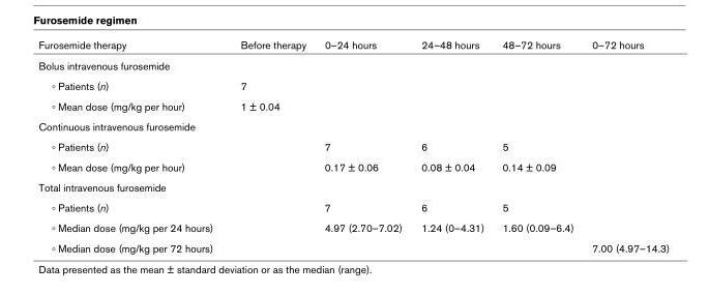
<table><thead><tr><td>Furosemide therapy</td><td>Before therapy</td><td>0–24 hours</td><td>24–48 hours</td><td>48–72 hours</td><td>0–72 hours</td></tr></thead><tbody><tr><td colspan="6">Bolus intravenous furosemide</td></tr><tr><td>◦ Patients (n)</td><td>7</td><td></td><td></td><td></td><td></td></tr><tr><td>◦ Mean dose (mg/kg per hour)</td><td>1 ± 0.04</td><td></td><td></td><td></td><td></td></tr><tr><td colspan="6">Continuous intravenous furosemide</td></tr><tr><td>◦ Patients (n)</td><td></td><td>7</td><td>6</td><td>5</td><td></td></tr><tr><td>◦ Mean dose (mg/kg per hour)</td><td></td><td>0.17 ± 0.06</td><td>0.08 ± 0.04</td><td>0.14 ± 0.09</td><td></td></tr><tr><td colspan="6">Total intravenous furosemide</td></tr><tr><td>◦ Patients (n)</td><td></td><td>7</td><td>6</td><td>5</td><td></td></tr><tr><td>◦ Median dose (mg/kg per 24 hours)</td><td></td><td>4.97 (2.70–7.02)</td><td>1.24 (0–4.31)</td><td>1.60 (0.09–6.4)</td><td></td></tr><tr><td>◦ Median dose (mg/kg per 72 hours)</td><td></td><td></td><td></td><td></td><td>7.00 (4.97–14.3)</td></tr></tbody></table>